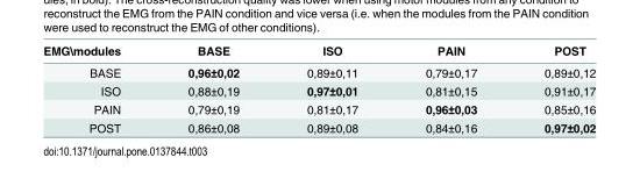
<table><thead><tr><td>EMG\modules</td><td>BASE</td><td>ISO</td><td>PAIN</td><td>POST</td></tr></thead><tbody><tr><td>BASE</td><td>0,96±0,02</td><td>0,89±0,11</td><td>0,79±0,17</td><td>0,89±0,12</td></tr><tr><td>ISO</td><td>0,88±0,19</td><td>0,97±0,01</td><td>0,81±0,15</td><td>0,91±0,17</td></tr><tr><td>PAIN</td><td>0,79±0,19</td><td>0,81±0,17</td><td>0,96±0,03</td><td>0,85±0,16</td></tr><tr><td>POST</td><td>0,86±0,08</td><td>0,89±0,08</td><td>0,84±0,16</td><td>0,97±0,02</td></tr></tbody></table>